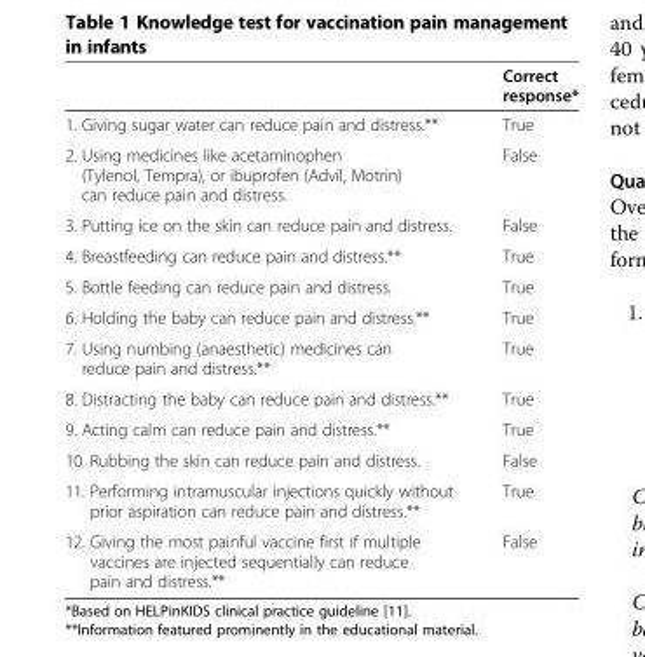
<table><thead><tr><td></td><td>Correct response*</td></tr></thead><tbody><tr><td>1. Giving sugar water can reduce pain and distress.**</td><td>True</td></tr><tr><td>2. Using medicines like acetaminophen (Tylenol, Tempra), or ibuprofen (Advil, Motrin) can reduce pain and distress.</td><td>False</td></tr><tr><td>3. Putting ice on the skin can reduce pain and distress.</td><td>False</td></tr><tr><td>4. Breastfeeding can reduce pain and distress.**</td><td>True</td></tr><tr><td>5. Bottle feeding can reduce pain and distress.</td><td>True</td></tr><tr><td>6. Holding the baby can reduce pain and distress.**</td><td>True</td></tr><tr><td>7. Using numbing (anaesthetic) medicines can reduce pain and distress.**</td><td>True</td></tr><tr><td>8. Distracting the baby can reduce pain and distress.**</td><td>True</td></tr><tr><td>9. Acting calm can reduce pain and distress.**</td><td>True</td></tr><tr><td>10. Rubbing the skin can reduce pain and distress.</td><td>False</td></tr><tr><td>11. Performing intramuscular injections quickly without prior aspiration can reduce pain and distress.**</td><td>True</td></tr><tr><td>12. Giving the most painful vaccine first if multiple vaccines are injected sequentially can reduce pain and distress.**</td><td>False</td></tr></tbody></table>